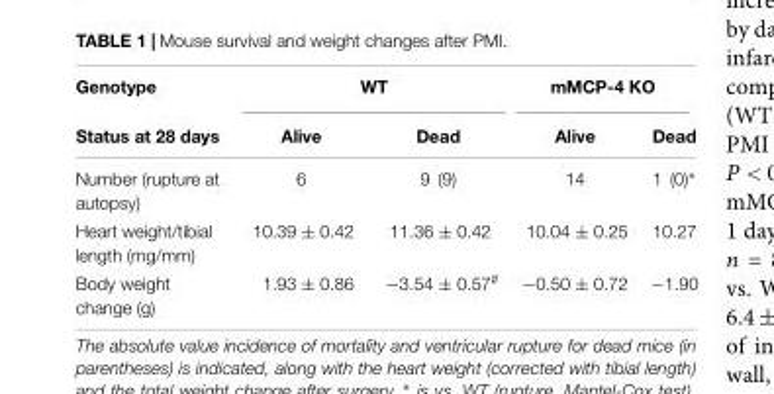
<table><thead><tr><td rowspan="2">Genotype Status at 28 days</td><td colspan="2">WT</td><td colspan="2">mMCP-4 KO</td></tr><tr><td>Alive</td><td>Dead</td><td>Alive</td><td>Dead</td></tr></thead><tbody><tr><td>Number (rupture at autopsy)</td><td>6</td><td>9 (9)</td><td>14</td><td>1 (0)∗</td></tr><tr><td>Heart weight/tibial length (mg/mm)</td><td>10.39 ± 0.42</td><td>11.36 ± 0.42</td><td>10.04 ± 0.25</td><td>10.27</td></tr><tr><td>Body weight change (g)</td><td>1.93 ± 0.86</td><td>−3.54 ± 0.57<sup>#</sup></td><td>−0.50 ± 0.72</td><td>−1.90</td></tr></tbody></table>